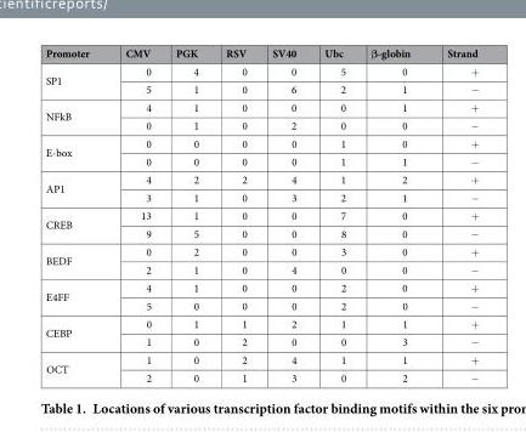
<table><thead><tr><td>Promoter</td><td>CMV</td><td>PGK</td><td>RSV</td><td>SV40</td><td>Ubc</td><td>β-globin</td><td>Strand</td></tr></thead><tbody><tr><td rowspan="2">SP1</td><td>0</td><td>4</td><td>0</td><td>0</td><td>5</td><td>0</td><td>+</td></tr><tr><td>5</td><td>1</td><td>0</td><td>6</td><td>2</td><td>1</td><td>−</td></tr><tr><td rowspan="2">NFkB</td><td>4</td><td>1</td><td>0</td><td>0</td><td>0</td><td>1</td><td>+</td></tr><tr><td>0</td><td>1</td><td>0</td><td>2</td><td>0</td><td>0</td><td>−</td></tr><tr><td rowspan="2">E-box</td><td>0</td><td>0</td><td>0</td><td>0</td><td>1</td><td>0</td><td>+</td></tr><tr><td>0</td><td>0</td><td>0</td><td>0</td><td>1</td><td>1</td><td>−</td></tr><tr><td rowspan="2">AP1</td><td>4</td><td>2</td><td>2</td><td>4</td><td>1</td><td>2</td><td>+</td></tr><tr><td>3</td><td>1</td><td>0</td><td>3</td><td>2</td><td>1</td><td>−</td></tr><tr><td rowspan="2">CREB</td><td>13</td><td>1</td><td>0</td><td>0</td><td>7</td><td>0</td><td>+</td></tr><tr><td>9</td><td>5</td><td>0</td><td>0</td><td>8</td><td>0</td><td>−</td></tr><tr><td rowspan="2">BEDF</td><td>0</td><td>2</td><td>0</td><td>0</td><td>3</td><td>0</td><td>+</td></tr><tr><td>2</td><td>1</td><td>0</td><td>4</td><td>0</td><td>0</td><td>−</td></tr><tr><td rowspan="2">E4FF</td><td>4</td><td>1</td><td>0</td><td>0</td><td>2</td><td>0</td><td>+</td></tr><tr><td>5</td><td>0</td><td>0</td><td>0</td><td>2</td><td>0</td><td>−</td></tr><tr><td rowspan="2">CEBP</td><td>0</td><td>1</td><td>1</td><td>2</td><td>1</td><td>1</td><td>+</td></tr><tr><td>1</td><td>0</td><td>2</td><td>0</td><td>0</td><td>3</td><td>−</td></tr><tr><td rowspan="2">OCT</td><td>1</td><td>0</td><td>2</td><td>4</td><td>1</td><td>1</td><td>+</td></tr><tr><td>2</td><td>0</td><td>1</td><td>3</td><td>0</td><td>2</td><td>−</td></tr></tbody></table>